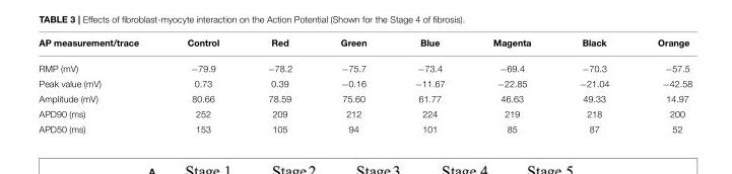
<table><thead><tr><td>AP measurement/trace</td><td>Control</td><td>Red</td><td>Green</td><td>Blue</td><td>Magenta</td><td>Black</td><td>Orange</td></tr></thead><tbody><tr><td>RMP (mV)</td><td>−79.9</td><td>−78.2</td><td>−75.7</td><td>−73.4</td><td>−69.4</td><td>−70.3</td><td>−57.5</td></tr><tr><td>Peak value (mV)</td><td>0.73</td><td>0.39</td><td>−0.16</td><td>−11.67</td><td>−22.85</td><td>−21.04</td><td>−42.58</td></tr><tr><td>Amplitude (mV)</td><td>80.66</td><td>78.59</td><td>75.60</td><td>61.77</td><td>46.63</td><td>49.33</td><td>14.97</td></tr><tr><td>APD90 (ms)</td><td>252</td><td>209</td><td>212</td><td>224</td><td>219</td><td>218</td><td>200</td></tr><tr><td>APD50 (ms)</td><td>153</td><td>105</td><td>94</td><td>101</td><td>85</td><td>87</td><td>52</td></tr></tbody></table>